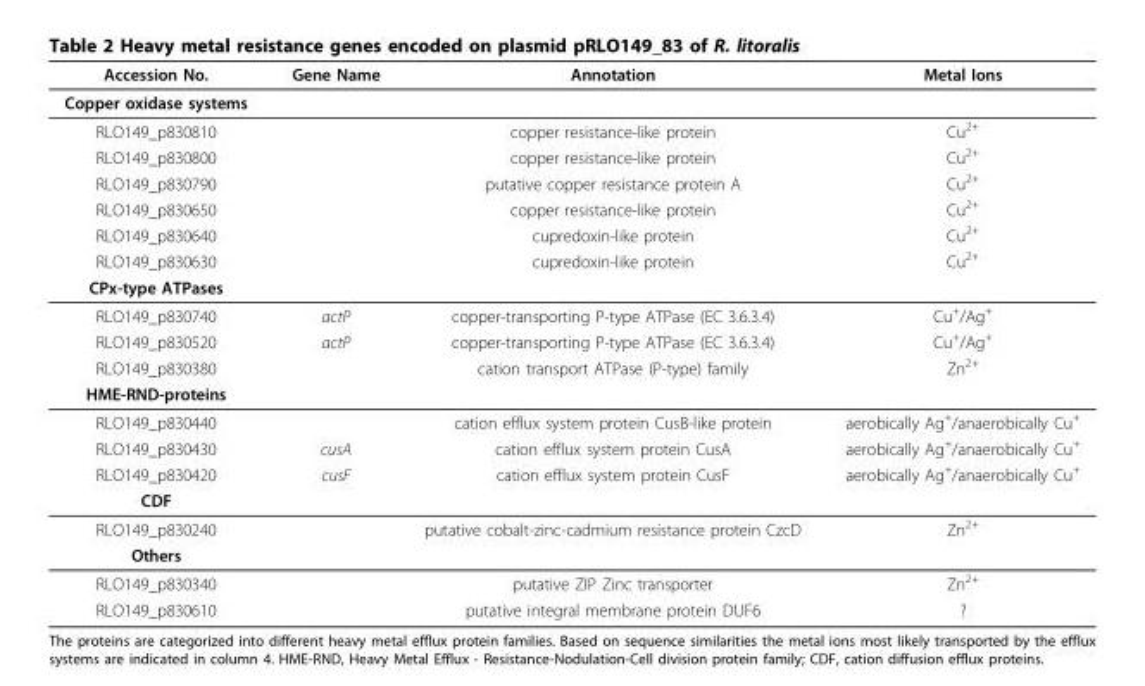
<table><thead><tr><td>Accession No.</td><td>Gene Name</td><td>Annotation</td><td>Metal Ions</td></tr></thead><tbody><tr><td colspan="4">Copper oxidase systems</td></tr><tr><td>RLO149_p830810</td><td></td><td>copper resistance-like protein</td><td>Cu<sup>2+</sup></td></tr><tr><td>RLO149_p830800</td><td></td><td>copper resistance-like protein</td><td>Cu<sup>2+</sup></td></tr><tr><td>RLO149_p830790</td><td></td><td>putative copper resistance protein A</td><td>Cu<sup>2+</sup></td></tr><tr><td>RLO149_p830650</td><td></td><td>copper resistance-like protein</td><td>Cu<sup>2+</sup></td></tr><tr><td>RLO149_p830640</td><td></td><td>cupredoxin-like protein</td><td>Cu<sup>2+</sup></td></tr><tr><td>RLO149_p830630</td><td></td><td>cupredoxin-like protein</td><td>Cu<sup>2+</sup></td></tr><tr><td colspan="4">CPx-type ATPases</td></tr><tr><td>RLO149_p830740</td><td>actP</td><td>copper-transporting P-type ATPase (EC 3.6.3.4)</td><td>Cu<sup>+</sup>/Ag<sup>+</sup></td></tr><tr><td>RLO149_p830520</td><td>actP</td><td>copper-transporting P-type ATPase (EC 3.6.3.4)</td><td>Cu<sup>+</sup>/Ag<sup>+</sup></td></tr><tr><td>RLO149_p830380</td><td></td><td>cation transport ATPase (P-type) family</td><td>Zn<sup>2+</sup></td></tr><tr><td colspan="4">HME-RND-proteins</td></tr><tr><td>RLO149_p830440</td><td></td><td>cation efflux system protein CusB-like protein</td><td>aerobically Ag<sup>+</sup>/anaerobically Cu<sup>+</sup></td></tr><tr><td>RLO149_p830430</td><td>cusA</td><td>cation efflux system protein CusA</td><td>aerobically Ag<sup>+</sup>/anaerobically Cu<sup>+</sup></td></tr><tr><td>RLO149_p830420</td><td>cusF</td><td>cation efflux system protein CusF</td><td>aerobically Ag<sup>+</sup>/anaerobically Cu<sup>+</sup></td></tr><tr><td colspan="4">CDF</td></tr><tr><td>RLO149_p830240</td><td></td><td>putative cobalt-zinc-cadmium resistance protein CzcD</td><td>Zn<sup>2+</sup></td></tr><tr><td colspan="4">Others</td></tr><tr><td>RLO149_p830340</td><td></td><td>putative ZIP Zinc transporter</td><td>Zn<sup>2+</sup></td></tr><tr><td>RLO149_p830610</td><td></td><td>putative integral membrane protein DUF6</td><td>?</td></tr></tbody></table>